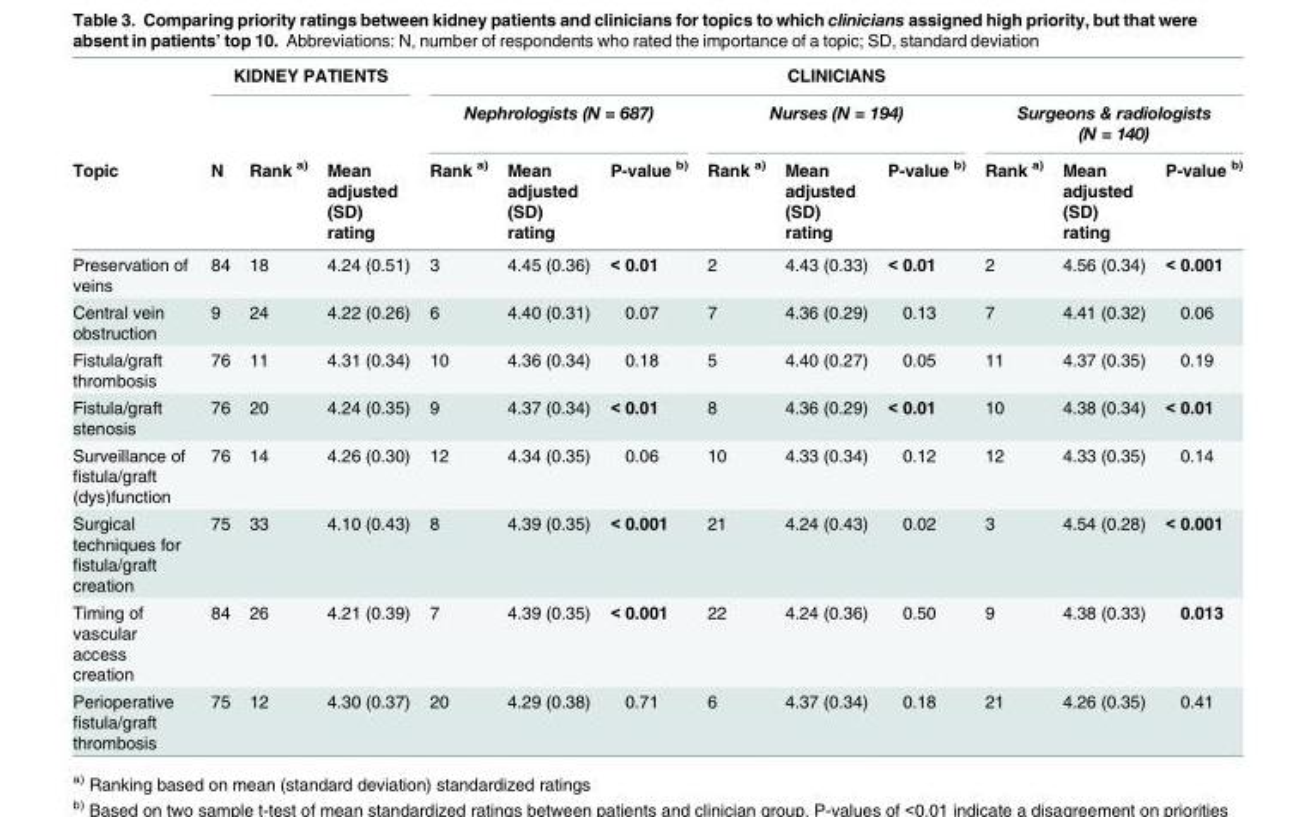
<table><thead><tr><td rowspan="3">Topic</td><td colspan="3">KIDNEY PATIENTS</td><td colspan="9">CLINICIANS</td></tr><tr><td rowspan="2">N</td><td rowspan="2">Rank <sup>a)</sup></td><td rowspan="2">Mean adjusted (SD) rating</td><td colspan="3">Nephrologists (N = 687)</td><td colspan="3">Nurses (N = 194)</td><td colspan="3">Surgeons &amp; radiologists (N = 140)</td></tr><tr><td>Rank <sup>a)</sup></td><td>Mean adjusted (SD) rating</td><td>P-value <sup>b)</sup></td><td>Rank <sup>a)</sup></td><td>Mean adjusted (SD) rating</td><td>P-value <sup>b)</sup></td><td>Rank <sup>a)</sup></td><td>Mean adjusted (SD) rating</td><td>P-value <sup>b)</sup></td></tr></thead><tbody><tr><td>Preservation of veins</td><td>84</td><td>18</td><td>4.24 (0.51)</td><td>3</td><td>4.45 (0.36)</td><td>&lt; 0.01</td><td>2</td><td>4.43 (0.33)</td><td>&lt; 0.01</td><td>2</td><td>4.56 (0.34)</td><td>&lt; 0.001</td></tr><tr><td>Central vein obstruction</td><td>9</td><td>24</td><td>4.22 (0.26)</td><td>6</td><td>4.40 (0.31)</td><td>0.07</td><td>7</td><td>4.36 (0.29)</td><td>0.13</td><td>7</td><td>4.41 (0.32)</td><td>0.06</td></tr><tr><td>Fistula/graft thrombosis</td><td>76</td><td>11</td><td>4.31 (0.34)</td><td>10</td><td>4.36 (0.34)</td><td>0.18</td><td>5</td><td>4.40 (0.27)</td><td>0.05</td><td>11</td><td>4.37 (0.35)</td><td>0.19</td></tr><tr><td>Fistula/graft stenosis</td><td>76</td><td>20</td><td>4.24 (0.35)</td><td>9</td><td>4.37 (0.34)</td><td>&lt; 0.01</td><td>8</td><td>4.36 (0.29)</td><td>&lt; 0.01</td><td>10</td><td>4.38 (0.34)</td><td>&lt; 0.01</td></tr><tr><td>Surveillance of fistula/graft (dys)function</td><td>76</td><td>14</td><td>4.26 (0.30)</td><td>12</td><td>4.34 (0.35)</td><td>0.06</td><td>10</td><td>4.33 (0.34)</td><td>0.12</td><td>12</td><td>4.33 (0.35)</td><td>0.14</td></tr><tr><td>Surgical techniques for fistula/graft creation</td><td>75</td><td>33</td><td>4.10 (0.43)</td><td>8</td><td>4.39 (0.35)</td><td>&lt; 0.001</td><td>21</td><td>4.24 (0.43)</td><td>0.02</td><td>3</td><td>4.54 (0.28)</td><td>&lt; 0.001</td></tr><tr><td>Timing of vascular access creation</td><td>84</td><td>26</td><td>4.21 (0.39)</td><td>7</td><td>4.39 (0.35)</td><td>&lt; 0.001</td><td>22</td><td>4.24 (0.36)</td><td>0.50</td><td>9</td><td>4.38 (0.33)</td><td>0.013</td></tr><tr><td>Perioperative fistula/graft thrombosis</td><td>75</td><td>12</td><td>4.30 (0.37)</td><td>20</td><td>4.29 (0.38)</td><td>0.71</td><td>6</td><td>4.37 (0.34)</td><td>0.18</td><td>21</td><td>4.26 (0.35)</td><td>0.41</td></tr></tbody></table>